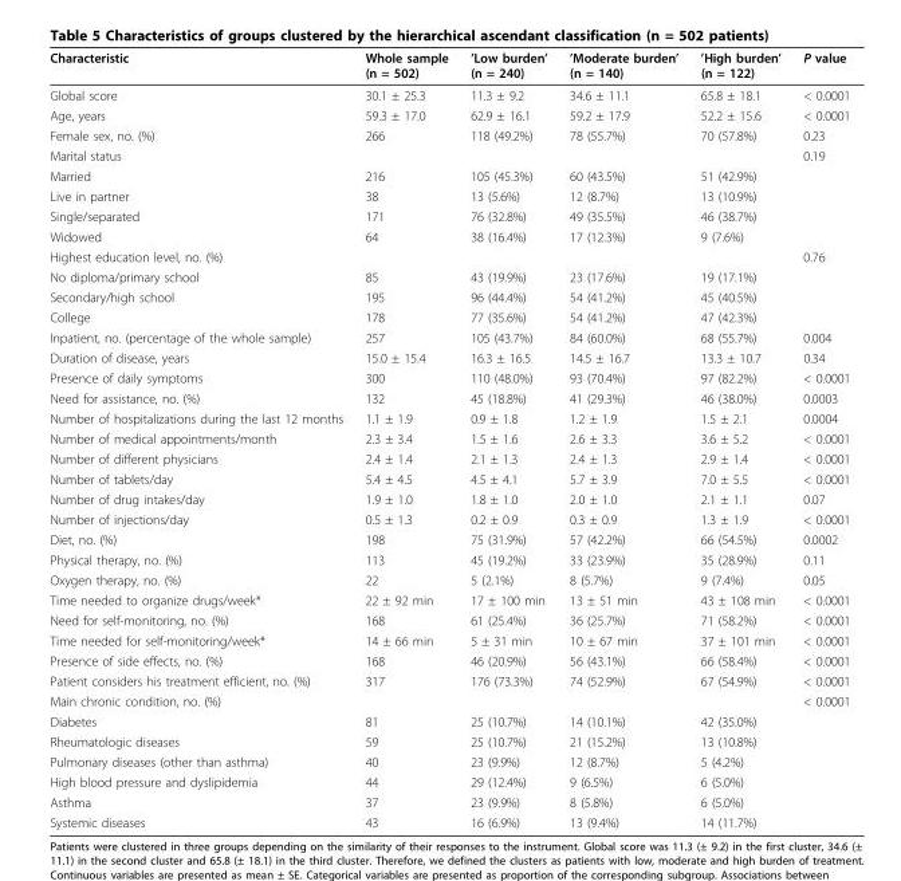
<table><thead><tr><td>Characteristic</td><td>Whole sample (n = 502)</td><td>’Low burden’ (n = 240)</td><td>’Moderate burden’ (n = 140)</td><td>’High burden’ (n = 122)</td><td>P value</td></tr></thead><tbody><tr><td>Global score</td><td>30.1 ± 25.3</td><td>11.3 ± 9.2</td><td>34.6 ± 11.1</td><td>65.8 ± 18.1</td><td>&lt; 0.0001</td></tr><tr><td>Age, years</td><td>59.3 ± 17.0</td><td>62.9 ± 16.1</td><td>59.2 ± 17.9</td><td>52.2 ± 15.6</td><td>&lt; 0.0001</td></tr><tr><td>Female sex, no. (%)</td><td>266</td><td>118 (49.2%)</td><td>78 (55.7%)</td><td>70 (57.8%)</td><td>0.23</td></tr><tr><td>Marital status</td><td></td><td></td><td></td><td></td><td>0.19</td></tr><tr><td>Married</td><td>216</td><td>105 (45.3%)</td><td>60 (43.5%)</td><td>51 (42.9%)</td><td></td></tr><tr><td>Live in partner</td><td>38</td><td>13 (5.6%)</td><td>12 (8.7%)</td><td>13 (10.9%)</td><td></td></tr><tr><td>Single/separated</td><td>171</td><td>76 (32.8%)</td><td>49 (35.5%)</td><td>46 (38.7%)</td><td></td></tr><tr><td>Widowed</td><td>64</td><td>38 (16.4%)</td><td>17 (12.3%)</td><td>9 (7.6%)</td><td></td></tr><tr><td>Highest education level, no. (%)</td><td></td><td></td><td></td><td></td><td>0.76</td></tr><tr><td>No diploma/primary school</td><td>85</td><td>43 (19.9%)</td><td>23 (17.6%)</td><td>19 (17.1%)</td><td></td></tr><tr><td>Secondary/high school</td><td>195</td><td>96 (44.4%)</td><td>54 (41.2%)</td><td>45 (40.5%)</td><td></td></tr><tr><td>College</td><td>178</td><td>77 (35.6%)</td><td>54 (41.2%)</td><td>47 (42.3%)</td><td></td></tr><tr><td>Inpatient, no. (percentage of the whole sample)</td><td>257</td><td>105 (43.7%)</td><td>84 (60.0%)</td><td>68 (55.7%)</td><td>0.004</td></tr><tr><td>Duration of disease, years</td><td>15.0 ± 15.4</td><td>16.3 ± 16.5</td><td>14.5 ± 16.7</td><td>13.3 ± 10.7</td><td>0.34</td></tr><tr><td>Presence of daily symptoms</td><td>300</td><td>110 (48.0%)</td><td>93 (70.4%)</td><td>97 (82.2%)</td><td>&lt; 0.0001</td></tr><tr><td>Need for assistance, no. (%)</td><td>132</td><td>45 (18.8%)</td><td>41 (29.3%)</td><td>46 (38.0%)</td><td>0.0003</td></tr><tr><td>Number of hospitalizations during the last 12 months</td><td>1.1 ± 1.9</td><td>0.9 ± 1.8</td><td>1.2 ± 1.9</td><td>1.5 ± 2.1</td><td>0.0004</td></tr><tr><td>Number of medical appointments/month</td><td>2.3 ± 3.4</td><td>1.5 ± 1.6</td><td>2.6 ± 3.3</td><td>3.6 ± 5.2</td><td>&lt; 0.0001</td></tr><tr><td>Number of different physicians</td><td>2.4 ± 1.4</td><td>2.1 ± 1.3</td><td>2.4 ± 1.3</td><td>2.9 ± 1.4</td><td>&lt; 0.0001</td></tr><tr><td>Number of tablets/day</td><td>5.4 ± 4.5</td><td>4.5 ± 4.1</td><td>5.7 ± 3.9</td><td>7.0 ± 5.5</td><td>&lt; 0.0001</td></tr><tr><td>Number of drug intakes/day</td><td>1.9 ± 1.0</td><td>1.8 ± 1.0</td><td>2.0 ± 1.0</td><td>2.1 ± 1.1</td><td>0.07</td></tr><tr><td>Number of injections/day</td><td>0.5 ± 1.3</td><td>0.2 ± 0.9</td><td>0.3 ± 0.9</td><td>1.3 ± 1.9</td><td>&lt; 0.0001</td></tr><tr><td>Diet, no. (%)</td><td>198</td><td>75 (31.9%)</td><td>57 (42.2%)</td><td>66 (54.5%)</td><td>0.0002</td></tr><tr><td>Physical therapy, no. (%)</td><td>113</td><td>45 (19.2%)</td><td>33 (23.9%)</td><td>35 (28.9%)</td><td>0.11</td></tr><tr><td>Oxygen therapy, no. (%)</td><td>22</td><td>5 (2.1%)</td><td>8 (5.7%)</td><td>9 (7.4%)</td><td>0.05</td></tr><tr><td>Time needed to organize drugs/week*</td><td>22 ± 92 min</td><td>17 ± 100 min</td><td>13 ± 51 min</td><td>43 ± 108 min</td><td>&lt; 0.0001</td></tr><tr><td>Need for self-monitoring, no. (%)</td><td>168</td><td>61 (25.4%)</td><td>36 (25.7%)</td><td>71 (58.2%)</td><td>&lt; 0.0001</td></tr><tr><td>Time needed for self-monitoring/week*</td><td>14 ± 66 min</td><td>5 ± 31 min</td><td>10 ± 67 min</td><td>37 ± 101 min</td><td>&lt; 0.0001</td></tr><tr><td>Presence of side effects, no. (%)</td><td>168</td><td>46 (20.9%)</td><td>56 (43.1%)</td><td>66 (58.4%)</td><td>&lt; 0.0001</td></tr><tr><td>Patient considers his treatment efficient, no. (%)</td><td>317</td><td>176 (73.3%)</td><td>74 (52.9%)</td><td>67 (54.9%)</td><td>&lt; 0.0001</td></tr><tr><td>Main chronic condition, no. (%)</td><td></td><td></td><td></td><td></td><td>&lt; 0.0001</td></tr><tr><td>Diabetes</td><td>81</td><td>25 (10.7%)</td><td>14 (10.1%)</td><td>42 (35.0%)</td><td></td></tr><tr><td>Rheumatologic diseases</td><td>59</td><td>25 (10.7%)</td><td>21 (15.2%)</td><td>13 (10.8%)</td><td></td></tr><tr><td>Pulmonary diseases (other than asthma)</td><td>40</td><td>23 (9.9%)</td><td>12 (8.7%)</td><td>5 (4.2%)</td><td></td></tr><tr><td>High blood pressure and dyslipidemia</td><td>44</td><td>29 (12.4%)</td><td>9 (6.5%)</td><td>6 (5.0%)</td><td></td></tr><tr><td>Asthma</td><td>37</td><td>23 (9.9%)</td><td>8 (5.8%)</td><td>6 (5.0%)</td><td></td></tr><tr><td>Systemic diseases</td><td>43</td><td>16 (6.9%)</td><td>13 (9.4%)</td><td>14 (11.7%)</td><td></td></tr></tbody></table>